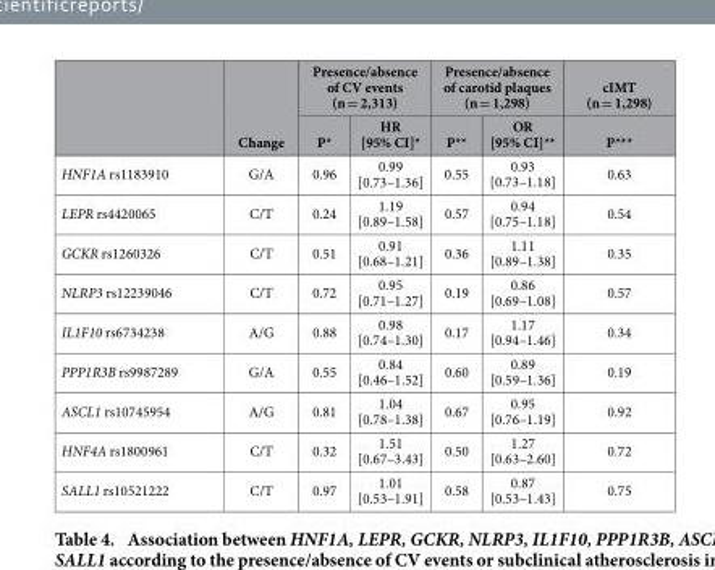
<table><thead><tr><td rowspan="2"></td><td rowspan="2">Change</td><td colspan="2">Presence/absence of CV events (n = 2,313)</td><td colspan="2">Presence/absence of carotid plaques (n = 1,298)</td><td rowspan="2">cIMT (n = 1,298) P***</td></tr><tr><td>P*</td><td>HR [95% CI]*</td><td>P**</td><td>OR [95% CI]**</td></tr></thead><tbody><tr><td>HNF1A rs1183910</td><td>G/A</td><td>0.96</td><td>0.99 [0.73–1.36]</td><td>0.55</td><td>0.93 [0.73–1.18]</td><td>0.63</td></tr><tr><td>LEPR rs4420065</td><td>C/T</td><td>0.24</td><td>1.19 [0.89–1.58]</td><td>0.57</td><td>0.94 [0.75–1.18]</td><td>0.54</td></tr><tr><td>GCKR rs1260326</td><td>C/T</td><td>0.51</td><td>0.91 [0.68–1.21]</td><td>0.36</td><td>1.11 [0.89–1.38]</td><td>0.35</td></tr><tr><td>NLRP3 rs12239046</td><td>C/T</td><td>0.72</td><td>0.95 [0.71–1.27]</td><td>0.19</td><td>0.86 [0.69–1.08]</td><td>0.57</td></tr><tr><td>IL1F10 rs6734238</td><td>A/G</td><td>0.88</td><td>0.98 [0.74–1.30]</td><td>0.17</td><td>1.17 [0.94–1.46]</td><td>0.34</td></tr><tr><td>PPP1R3B rs9987289</td><td>G/A</td><td>0.55</td><td>0.84 [0.46–1.52]</td><td>0.60</td><td>0.89 [0.59–1.36]</td><td>0.19</td></tr><tr><td>ASCL1 rs10745954</td><td>A/G</td><td>0.81</td><td>1.04 [0.78–1.38]</td><td>0.67</td><td>0.95 [0.76–1.19]</td><td>0.92</td></tr><tr><td>HNF4A rs1800961</td><td>C/T</td><td>0.32</td><td>1.51 [0.67–3.43]</td><td>0.50</td><td>1.27 [0.63–2.60]</td><td>0.72</td></tr><tr><td>SALL1 rs10521222</td><td>C/T</td><td>0.97</td><td>1.01 [0.53–1.91]</td><td>0.58</td><td>0.87 [0.53–1.43]</td><td>0.75</td></tr></tbody></table>